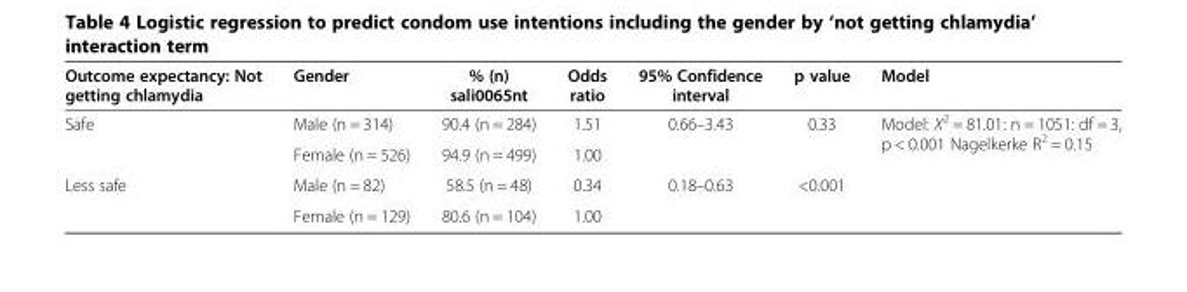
<table><thead><tr><td>Outcome expectancy: Not getting chlamydia</td><td>Gender</td><td>% (n) sali0065nt</td><td>Odds ratio</td><td>95% Confidence interval</td><td>p value</td><td>Model</td></tr></thead><tbody><tr><td rowspan="2">Safe</td><td>Male (n = 314)</td><td>90.4 (n = 284)</td><td>1.51</td><td>0.66–3.43</td><td>0.33</td><td rowspan="4">Model: X<sup>2</sup> = 81.01: n = 1051: df = 3, p &lt; 0.001 Nagelkerke R<sup>2</sup> = 0.15</td></tr><tr><td>Female (n = 526)</td><td>94.9 (n = 499)</td><td>1.00</td><td></td><td></td></tr><tr><td rowspan="2">Less safe</td><td>Male (n = 82)</td><td>58.5 (n = 48)</td><td>0.34</td><td>0.18–0.63</td><td>&lt;0.001</td></tr><tr><td>Female (n = 129)</td><td>80.6 (n = 104)</td><td>1.00</td><td></td><td></td></tr></tbody></table>